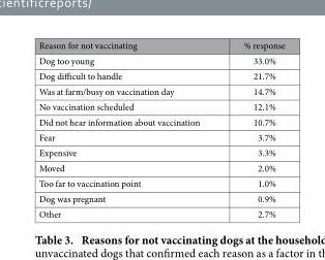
<table><thead><tr><td>Reason for not vaccinating</td><td>% response</td></tr></thead><tbody><tr><td>Dog too young</td><td>33.0%</td></tr><tr><td>Dog difficult to handle</td><td>21.7%</td></tr><tr><td>Was at farm/busy on vaccination day</td><td>14.7%</td></tr><tr><td>No vaccination scheduled</td><td>12.1%</td></tr><tr><td>Did not hear information about vaccination</td><td>10.7%</td></tr><tr><td>Fear</td><td>3.7%</td></tr><tr><td>Expensive</td><td>3.3%</td></tr><tr><td>Moved</td><td>2.0%</td></tr><tr><td>Too far to vaccination point</td><td>1.0%</td></tr><tr><td>Dog was pregnant</td><td>0.9%</td></tr><tr><td>Other</td><td>2.7%</td></tr></tbody></table>